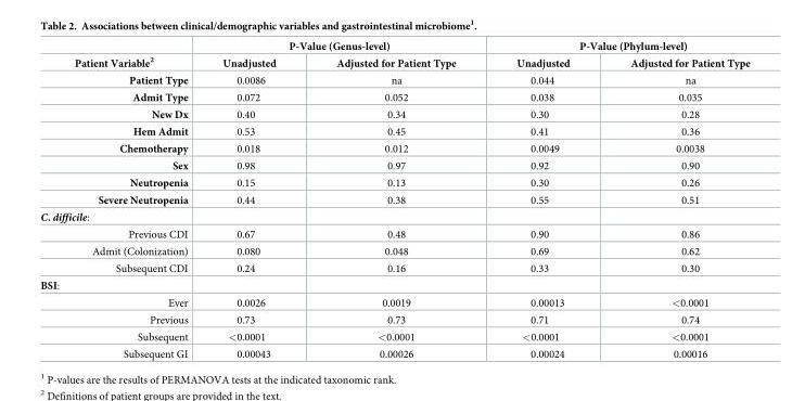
<table><thead><tr><td rowspan="2">Patient Variable<sup>2</sup></td><td colspan="2">P-Value (Genus-level)</td><td colspan="2">P-Value (Phylum-level)</td></tr><tr><td>Unadjusted</td><td>Adjusted for Patient Type</td><td>Unadjusted</td><td>Adjusted for Patient Type</td></tr></thead><tbody><tr><td>Patient Type</td><td>0.0086</td><td>na</td><td>0.044</td><td>na</td></tr><tr><td>Admit Type</td><td>0.072</td><td>0.052</td><td>0.038</td><td>0.035</td></tr><tr><td>New Dx</td><td>0.40</td><td>0.34</td><td>0.30</td><td>0.28</td></tr><tr><td>Hem Admit</td><td>0.53</td><td>0.45</td><td>0.41</td><td>0.36</td></tr><tr><td>Chemotherapy</td><td>0.018</td><td>0.012</td><td>0.0049</td><td>0.0038</td></tr><tr><td>Sex</td><td>0.98</td><td>0.97</td><td>0.92</td><td>0.90</td></tr><tr><td>Neutropenia</td><td>0.15</td><td>0.13</td><td>0.30</td><td>0.26</td></tr><tr><td>Severe Neutropenia</td><td>0.44</td><td>0.38</td><td>0.55</td><td>0.51</td></tr><tr><td colspan="5">C. difficile:</td></tr><tr><td>Previous CDI</td><td>0.67</td><td>0.48</td><td>0.90</td><td>0.86</td></tr><tr><td>Admit (Colonization)</td><td>0.080</td><td>0.048</td><td>0.69</td><td>0.62</td></tr><tr><td>Subsequent CDI</td><td>0.24</td><td>0.16</td><td>0.33</td><td>0.30</td></tr><tr><td colspan="5">BSI:</td></tr><tr><td>Ever</td><td>0.0026</td><td>0.0019</td><td>0.00013</td><td>&lt;0.0001</td></tr><tr><td>Previous</td><td>0.73</td><td>0.73</td><td>0.71</td><td>0.74</td></tr><tr><td>Subsequent</td><td>&lt;0.0001</td><td>&lt;0.0001</td><td>&lt;0.0001</td><td>&lt;0.0001</td></tr><tr><td>Subsequent GI</td><td>0.00043</td><td>0.00026</td><td>0.00024</td><td>0.00016</td></tr></tbody></table>